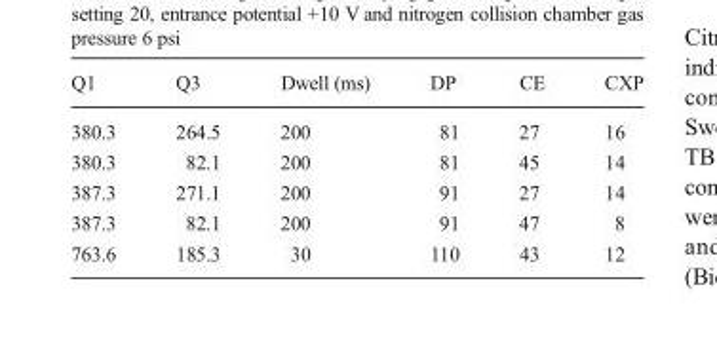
<table><thead><tr><td>Q1</td><td>Q3</td><td>Dwell (ms)</td><td>DP</td><td>CE</td><td>CXP</td></tr></thead><tbody><tr><td>380.3</td><td>264.5</td><td>200</td><td>81</td><td>27</td><td>16</td></tr><tr><td>380.3</td><td>82.1</td><td>200</td><td>81</td><td>45</td><td>14</td></tr><tr><td>387.3</td><td>271.1</td><td>200</td><td>91</td><td>27</td><td>14</td></tr><tr><td>387.3</td><td>82.1</td><td>200</td><td>91</td><td>47</td><td>8</td></tr><tr><td>763.6</td><td>185.3</td><td>30</td><td>110</td><td>43</td><td>12</td></tr></tbody></table>